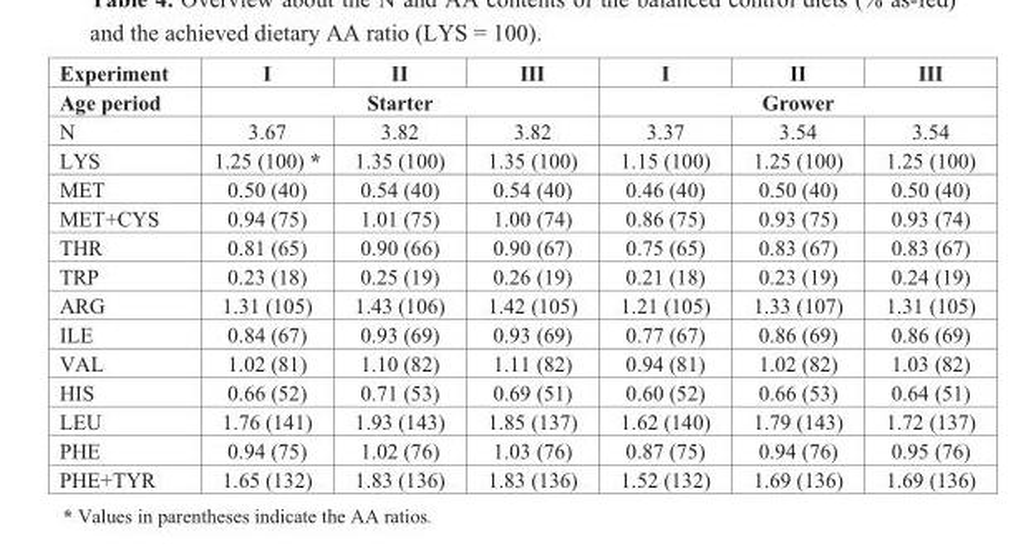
<table><thead><tr><td rowspan="2">Experiment Age period</td><td>I</td><td>II</td><td>III</td><td>I</td><td>II</td><td>III</td></tr><tr><td colspan="3">Starter</td><td colspan="3">Grower</td></tr></thead><tbody><tr><td>N</td><td>3.67</td><td>3.82</td><td>3.82</td><td>3.37</td><td>3.54</td><td>3.54</td></tr><tr><td>LYS</td><td>1.25 (100) *</td><td>1.35 (100)</td><td>1.35 (100)</td><td>1.15 (100)</td><td>1.25 (100)</td><td>1.25 (100)</td></tr><tr><td>MET</td><td>0.50 (40)</td><td>0.54 (40)</td><td>0.54 (40)</td><td>0.46 (40)</td><td>0.50 (40)</td><td>0.50 (40)</td></tr><tr><td>MET+CYS</td><td>0.94 (75)</td><td>1.01 (75)</td><td>1.00 (74)</td><td>0.86 (75)</td><td>0.93 (75)</td><td>0.93 (74)</td></tr><tr><td>THR</td><td>0.81 (65)</td><td>0.90 (66)</td><td>0.90 (67)</td><td>0.75 (65)</td><td>0.83 (67)</td><td>0.83 (67)</td></tr><tr><td>TRP</td><td>0.23 (18)</td><td>0.25 (19)</td><td>0.26 (19)</td><td>0.21 (18)</td><td>0.23 (19)</td><td>0.24 (19)</td></tr><tr><td>ARG</td><td>1.31 (105)</td><td>1.43 (106)</td><td>1.42 (105)</td><td>1.21 (105)</td><td>1.33 (107)</td><td>1.31 (105)</td></tr><tr><td>ILE</td><td>0.84 (67)</td><td>0.93 (69)</td><td>0.93 (69)</td><td>0.77 (67)</td><td>0.86 (69)</td><td>0.86 (69)</td></tr><tr><td>VAL</td><td>1.02 (81)</td><td>1.10 (82)</td><td>1.11 (82)</td><td>0.94 (81)</td><td>1.02 (82)</td><td>1.03 (82)</td></tr><tr><td>HIS</td><td>0.66 (52)</td><td>0.71 (53)</td><td>0.69 (51)</td><td>0.60 (52)</td><td>0.66 (53)</td><td>0.64 (51)</td></tr><tr><td>LEU</td><td>1.76 (141)</td><td>1.93 (143)</td><td>1.85 (137)</td><td>1.62 (140)</td><td>1.79 (143)</td><td>1.72 (137)</td></tr><tr><td>PHE</td><td>0.94 (75)</td><td>1.02 (76)</td><td>1.03 (76)</td><td>0.87 (75)</td><td>0.94 (76)</td><td>0.95 (76)</td></tr><tr><td>PHE+TYR</td><td>1.65 (132)</td><td>1.83 (136)</td><td>1.83 (136)</td><td>1.52 (132)</td><td>1.69 (136)</td><td>1.69 (136)</td></tr></tbody></table>